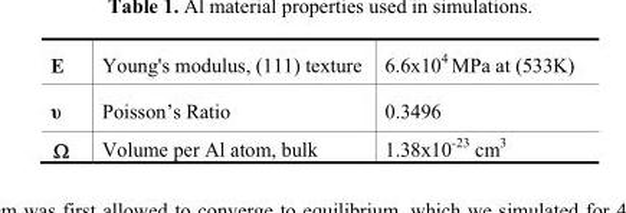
<table><tbody><tr><td>E</td><td>Young&#x27;s modulus, (111) texture</td><td>6.6x10<sup>4</sup> MPa at (533K)</td></tr><tr><td>υ</td><td>Poisson’s Ratio</td><td>0.3496</td></tr><tr><td>Ω</td><td>Volume per Al atom, bulk</td><td>1.38x10<sup>-23</sup> cm<sup>3</sup></td></tr></tbody></table>